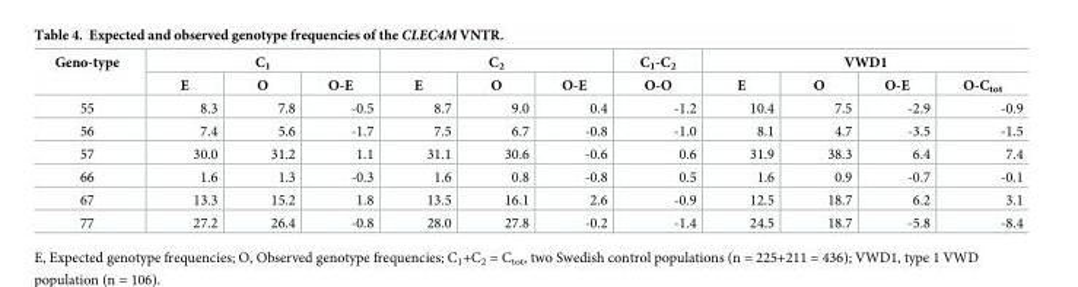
<table><thead><tr><td rowspan="2">Geno-type</td><td colspan="3">C<sub>1</sub></td><td colspan="3">C<sub>2</sub></td><td rowspan="2">C<sub>1</sub>-C<sub>2</sub> O-O</td><td colspan="4">VWD1</td></tr><tr><td>E</td><td>O</td><td>O-E</td><td>E</td><td>O</td><td>O-E</td><td>E</td><td>O</td><td>O-E</td><td>O-C<sub>tot</sub></td></tr></thead><tbody><tr><td>55</td><td>8.3</td><td>7.8</td><td>-0.5</td><td>8.7</td><td>9.0</td><td>0.4</td><td>-1.2</td><td>10.4</td><td>7.5</td><td>-2.9</td><td>-0.9</td></tr><tr><td>56</td><td>7.4</td><td>5.6</td><td>-1.7</td><td>7.5</td><td>6.7</td><td>-0.8</td><td>-1.0</td><td>8.1</td><td>4.7</td><td>-3.5</td><td>-1.5</td></tr><tr><td>57</td><td>30.0</td><td>31.2</td><td>1.1</td><td>31.1</td><td>30.6</td><td>-0.6</td><td>0.6</td><td>31.9</td><td>38.3</td><td>6.4</td><td>7.4</td></tr><tr><td>66</td><td>1.6</td><td>1.3</td><td>-0.3</td><td>1.6</td><td>0.8</td><td>-0.8</td><td>0.5</td><td>1.6</td><td>0.9</td><td>-0.7</td><td>-0.1</td></tr><tr><td>67</td><td>13.3</td><td>15.2</td><td>1.8</td><td>13.5</td><td>16.1</td><td>2.6</td><td>-0.9</td><td>12.5</td><td>18.7</td><td>6.2</td><td>3.1</td></tr><tr><td>77</td><td>27.2</td><td>26.4</td><td>-0.8</td><td>28.0</td><td>27.8</td><td>-0.2</td><td>-1.4</td><td>24.5</td><td>18.7</td><td>-5.8</td><td>-8.4</td></tr></tbody></table>